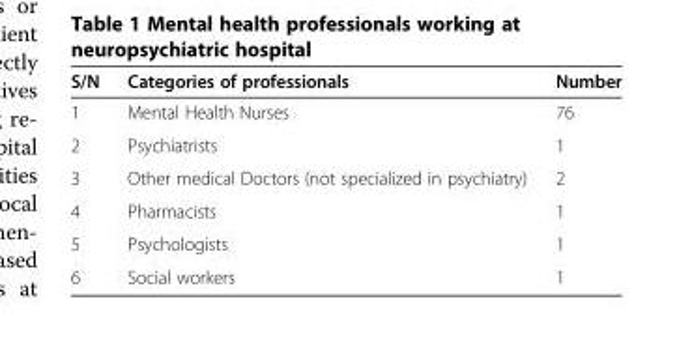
<table><thead><tr><td>S/N</td><td>Categories of professionals</td><td>Number</td></tr></thead><tbody><tr><td>1</td><td>Mental Health Nurses</td><td>76</td></tr><tr><td>2</td><td>Psychiatrists</td><td>1</td></tr><tr><td>3</td><td>Other medical Doctors (not specialized in psychiatry)</td><td>2</td></tr><tr><td>4</td><td>Pharmacists</td><td>1</td></tr><tr><td>5</td><td>Psychologists</td><td>1</td></tr><tr><td>6</td><td>Social workers</td><td>1</td></tr></tbody></table>